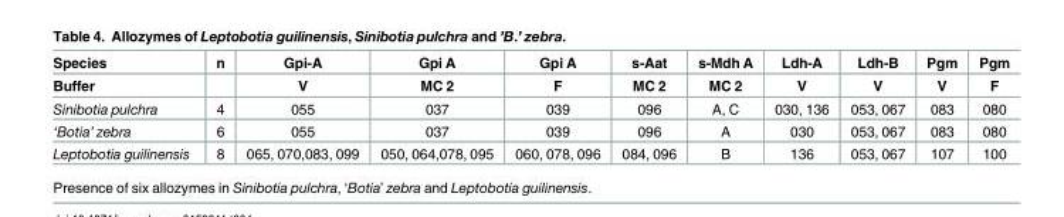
<table><thead><tr><td rowspan="2">Species Buffer</td><td rowspan="2">n</td><td rowspan="2">Gpi-A V</td><td rowspan="2">Gpi A MC 2</td><td rowspan="2">Gpi A F</td><td rowspan="2">s-Aat MC 2</td><td rowspan="2">s-Mdh A MC 2</td><td rowspan="2">Ldh-A V</td><td rowspan="2">Ldh-B V</td><td rowspan="2">Pgm V</td><td rowspan="2">Pgm F</td></tr><tr></tr></thead><tbody><tr><td>Sinibotia pulchra</td><td>4</td><td>055</td><td>037</td><td>039</td><td>096</td><td>A, C</td><td>030, 136</td><td>053, 067</td><td>083</td><td>080</td></tr><tr><td>‘Botia’ zebra</td><td>6</td><td>055</td><td>037</td><td>039</td><td>096</td><td>A</td><td>030</td><td>053, 067</td><td>083</td><td>080</td></tr><tr><td>Leptobotia guilinensis</td><td>8</td><td>065, 070,083, 099</td><td>050, 064,078, 095</td><td>060, 078, 096</td><td>084, 096</td><td>B</td><td>136</td><td>053, 067</td><td>107</td><td>100</td></tr></tbody></table>